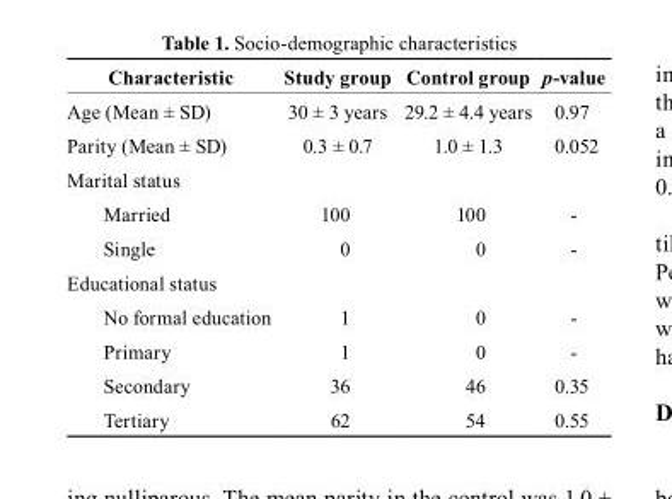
<table><thead><tr><td>characteristic</td><td>study group</td><td>control group</td><td>p-value</td></tr></thead><tbody><tr><td>Age (Mean ± SD)</td><td>30 ± 3 years</td><td>29.2 ± 4.4 years</td><td>0.97</td></tr><tr><td>Parity (Mean ± SD)</td><td>0.3 ± 0.7</td><td>1.0 ± 1.3</td><td>0.052</td></tr><tr><td colspan="4">Marital status</td></tr><tr><td>Married</td><td>100</td><td>100</td><td>-</td></tr><tr><td>Single</td><td>0</td><td>0</td><td>-</td></tr><tr><td colspan="4">Educational status</td></tr><tr><td>No formal education</td><td>1</td><td>0</td><td>-</td></tr><tr><td>Primary</td><td>1</td><td>0</td><td>-</td></tr><tr><td>Secondary</td><td>36</td><td>46</td><td>0.35</td></tr><tr><td>Tertiary</td><td>62</td><td>54</td><td>0.55</td></tr></tbody></table>